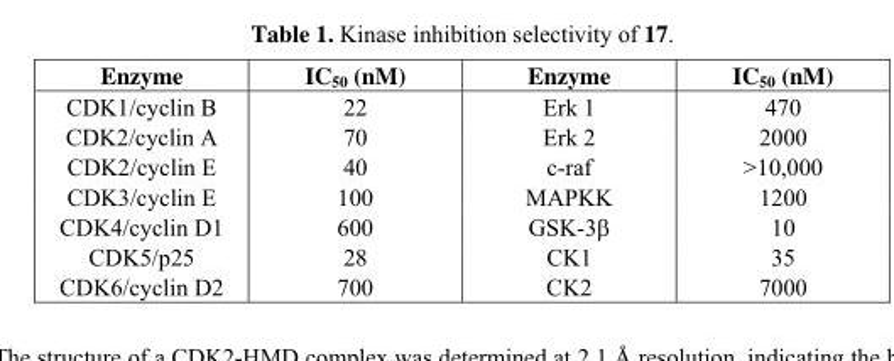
<table><thead><tr><td>Enzyme</td><td>IC<sub>50</sub> (nM)</td><td>Enzyme</td><td>IC<sub>50</sub> (nM)</td></tr></thead><tbody><tr><td>CDK1/cyclin B</td><td>22</td><td>Erk 1</td><td>470</td></tr><tr><td>CDK2/cyclin A</td><td>70</td><td>Erk 2</td><td>2000</td></tr><tr><td>CDK2/cyclin E</td><td>40</td><td>c-raf</td><td>&gt;10,000</td></tr><tr><td>CDK3/cyclin E</td><td>100</td><td>MAPKK</td><td>1200</td></tr><tr><td>CDK4/cyclin D1</td><td>600</td><td>GSK-3β</td><td>10</td></tr><tr><td>CDK5/p25</td><td>28</td><td>CK1</td><td>35</td></tr><tr><td>CDK6/cyclin D2</td><td>700</td><td>CK2</td><td>7000</td></tr></tbody></table>